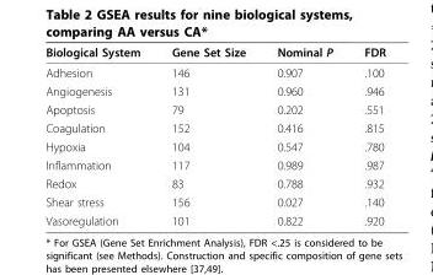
<table><thead><tr><td>Biological System</td><td>Gene Set Size</td><td>Nominal P</td><td>FDR</td></tr></thead><tbody><tr><td>Adhesion</td><td>146</td><td>0.907</td><td>.100</td></tr><tr><td>Angiogenesis</td><td>131</td><td>0.960</td><td>.946</td></tr><tr><td>Apoptosis</td><td>79</td><td>0.202</td><td>.551</td></tr><tr><td>Coagulation</td><td>152</td><td>0.416</td><td>.815</td></tr><tr><td>Hypoxia</td><td>104</td><td>0.547</td><td>.780</td></tr><tr><td>Inflammation</td><td>117</td><td>0.989</td><td>.987</td></tr><tr><td>Redox</td><td>83</td><td>0.788</td><td>.932</td></tr><tr><td>Shear stress</td><td>156</td><td>0.027</td><td>.140</td></tr><tr><td>Vasoregulation</td><td>101</td><td>0.822</td><td>.920</td></tr></tbody></table>